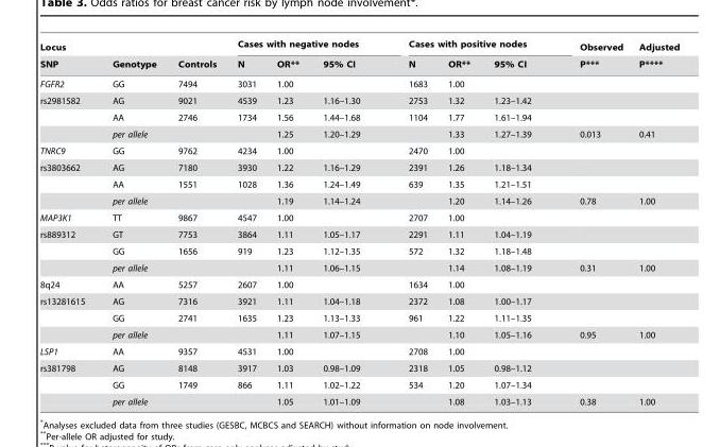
<table><thead><tr><td rowspan="2">Locus SNP</td><td rowspan="2">Genotype</td><td rowspan="2">Controls</td><td colspan="3">Cases with negative nodes</td><td colspan="3">Cases with positive nodes</td><td rowspan="2">Observed P***</td><td rowspan="2">Adjusted P****</td></tr><tr><td>N</td><td>OR**</td><td>95% CI</td><td>N</td><td>OR**</td><td>95% CI</td></tr></thead><tbody><tr><td>FGFR2</td><td>GG</td><td>7494</td><td>3031</td><td>1.00</td><td></td><td>1683</td><td>1.00</td><td></td><td></td><td></td></tr><tr><td rowspan="3">rs2981582</td><td>AG</td><td>9021</td><td>4539</td><td>1.23</td><td>1.16–1.30</td><td>2753</td><td>1.32</td><td>1.23–1.42</td><td></td><td></td></tr><tr><td>AA</td><td>2746</td><td>1734</td><td>1.56</td><td>1.44–1.68</td><td>1104</td><td>1.77</td><td>1.61–1.94</td><td></td><td></td></tr><tr><td>per allele</td><td></td><td></td><td>1.25</td><td>1.20–1.29</td><td></td><td>1.33</td><td>1.27–1.39</td><td>0.013</td><td>0.41</td></tr><tr><td>TNRC9</td><td>GG</td><td>9762</td><td>4234</td><td>1.00</td><td></td><td>2470</td><td>1.00</td><td></td><td></td><td></td></tr><tr><td rowspan="3">rs3803662</td><td>AG</td><td>7180</td><td>3930</td><td>1.22</td><td>1.16–1.29</td><td>2391</td><td>1.26</td><td>1.18–1.34</td><td></td><td></td></tr><tr><td>AA</td><td>1551</td><td>1028</td><td>1.36</td><td>1.24–1.49</td><td>639</td><td>1.35</td><td>1.21–1.51</td><td></td><td></td></tr><tr><td>per allele</td><td></td><td></td><td>1.19</td><td>1.14–1.24</td><td></td><td>1.20</td><td>1.14–1.26</td><td>0.78</td><td>1.00</td></tr><tr><td>MAP3K1</td><td>TT</td><td>9867</td><td>4547</td><td>1.00</td><td></td><td>2707</td><td>1.00</td><td></td><td></td><td></td></tr><tr><td rowspan="3">rs889312</td><td>GT</td><td>7753</td><td>3864</td><td>1.11</td><td>1.05–1.17</td><td>2291</td><td>1.11</td><td>1.04–1.19</td><td></td><td></td></tr><tr><td>GG</td><td>1656</td><td>919</td><td>1.23</td><td>1.12–1.35</td><td>572</td><td>1.32</td><td>1.18–1.48</td><td></td><td></td></tr><tr><td>per allele</td><td></td><td></td><td>1.11</td><td>1.06–1.15</td><td></td><td>1.14</td><td>1.08–1.19</td><td>0.31</td><td>1.00</td></tr><tr><td>8q24</td><td>AA</td><td>5257</td><td>2607</td><td>1.00</td><td></td><td>1634</td><td>1.00</td><td></td><td></td><td></td></tr><tr><td rowspan="3">rs13281615</td><td>AG</td><td>7316</td><td>3921</td><td>1.11</td><td>1.04–1.18</td><td>2372</td><td>1.08</td><td>1.00–1.17</td><td></td><td></td></tr><tr><td>GG</td><td>2741</td><td>1635</td><td>1.23</td><td>1.13–1.33</td><td>961</td><td>1.22</td><td>1.11–1.35</td><td></td><td></td></tr><tr><td>per allele</td><td></td><td></td><td>1.11</td><td>1.07–1.15</td><td></td><td>1.10</td><td>1.05–1.16</td><td>0.95</td><td>1.00</td></tr><tr><td>LSP1</td><td>AA</td><td>9357</td><td>4531</td><td>1.00</td><td></td><td>2708</td><td>1.00</td><td></td><td></td><td></td></tr><tr><td rowspan="3">rs381798</td><td>AG</td><td>8148</td><td>3917</td><td>1.03</td><td>0.98–1.09</td><td>2318</td><td>1.05</td><td>0.98–1.12</td><td></td><td></td></tr><tr><td>GG</td><td>1749</td><td>866</td><td>1.11</td><td>1.02–1.22</td><td>534</td><td>1.20</td><td>1.07–1.34</td><td></td><td></td></tr><tr><td>per allele</td><td></td><td></td><td>1.05</td><td>1.01–1.09</td><td></td><td>1.08</td><td>1.03–1.13</td><td>0.38</td><td>1.00</td></tr></tbody></table>